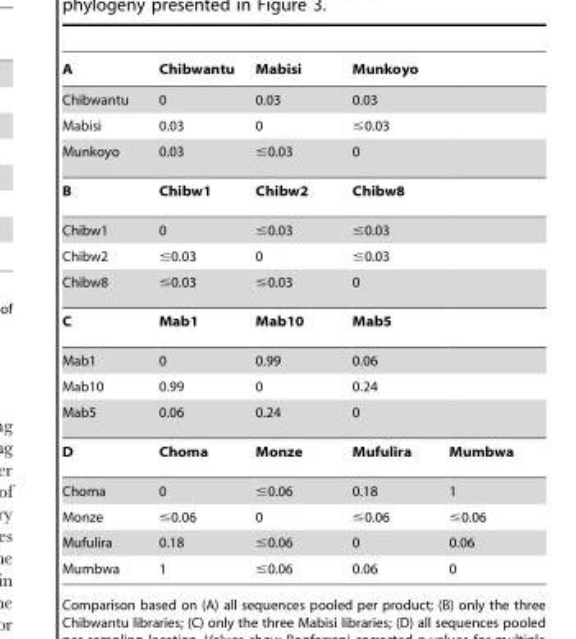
<table><thead><tr><td>A</td><td>Chibwantu</td><td>Mabisi</td><td>Munkoyo</td><td></td></tr></thead><tbody><tr><td>Chibwantu</td><td>0</td><td>0.03</td><td>0.03</td><td></td></tr><tr><td>Mabisi</td><td>0.03</td><td>0</td><td>≤0.03</td><td></td></tr><tr><td>Munkoyo</td><td>0.03</td><td>≤0.03</td><td>0</td><td></td></tr><tr><td>B</td><td>Chibw1</td><td>Chibw2</td><td>Chibw8</td><td></td></tr><tr><td>Chibw1</td><td>0</td><td>≤0.03</td><td>≤0.03</td><td></td></tr><tr><td>Chibw2</td><td>≤0.03</td><td>0</td><td>≤0.03</td><td></td></tr><tr><td>Chibw8</td><td>≤0.03</td><td>≤0.03</td><td>0</td><td></td></tr><tr><td>C</td><td>Mab1</td><td>Mab10</td><td>Mab5</td><td></td></tr><tr><td>Mab1</td><td>0</td><td>0.99</td><td>0.06</td><td></td></tr><tr><td>Mab10</td><td>0.99</td><td>0</td><td>0.24</td><td></td></tr><tr><td>Mab5</td><td>0.06</td><td>0.24</td><td>0</td><td></td></tr><tr><td>D</td><td>Choma</td><td>Monze</td><td>Mufulira</td><td>Mumbwa</td></tr><tr><td>Choma</td><td>0</td><td>≤0.06</td><td>0.18</td><td>1</td></tr><tr><td>Monze</td><td>≤0.06</td><td>0</td><td>≤0.06</td><td>≤0.06</td></tr><tr><td>Mufulira</td><td>0.18</td><td>≤0.06</td><td>0</td><td>0.06</td></tr><tr><td>Mumbwa</td><td>1</td><td>≤0.06</td><td>0.06</td><td>0</td></tr></tbody></table>